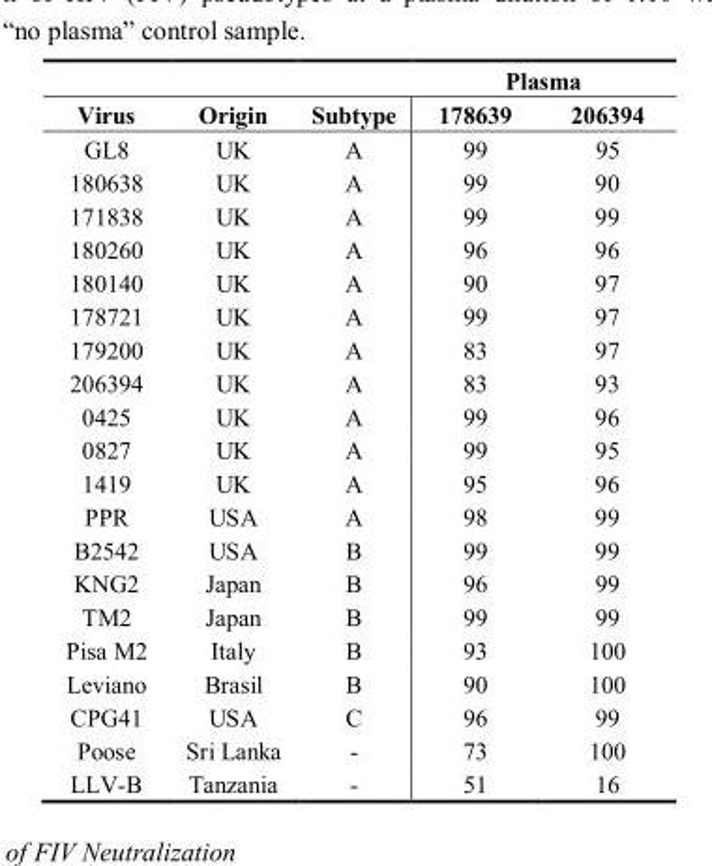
<table><thead><tr><td rowspan="2">Virus</td><td rowspan="2">Origin</td><td rowspan="2">Subtype</td><td colspan="2">Plasma</td></tr><tr><td>178639</td><td>206394</td></tr></thead><tbody><tr><td>GL8</td><td>UK</td><td>A</td><td>99</td><td>95</td></tr><tr><td>180638</td><td>UK</td><td>A</td><td>99</td><td>90</td></tr><tr><td>171838</td><td>UK</td><td>A</td><td>99</td><td>99</td></tr><tr><td>180260</td><td>UK</td><td>A</td><td>96</td><td>96</td></tr><tr><td>180140</td><td>UK</td><td>A</td><td>90</td><td>97</td></tr><tr><td>178721</td><td>UK</td><td>A</td><td>99</td><td>97</td></tr><tr><td>179200</td><td>UK</td><td>A</td><td>83</td><td>97</td></tr><tr><td>206394</td><td>UK</td><td>A</td><td>83</td><td>93</td></tr><tr><td>0425</td><td>UK</td><td>A</td><td>99</td><td>96</td></tr><tr><td>0827</td><td>UK</td><td>A</td><td>99</td><td>95</td></tr><tr><td>1419</td><td>UK</td><td>A</td><td>95</td><td>96</td></tr><tr><td>PPR</td><td>USA</td><td>A</td><td>98</td><td>99</td></tr><tr><td>B2542</td><td>USA</td><td>B</td><td>99</td><td>99</td></tr><tr><td>KNG2</td><td>Japan</td><td>B</td><td>96</td><td>99</td></tr><tr><td>TM2</td><td>Japan</td><td>B</td><td>99</td><td>99</td></tr><tr><td>Pisa M2</td><td>Italy</td><td>B</td><td>93</td><td>100</td></tr><tr><td>Leviano</td><td>Brasil</td><td>B</td><td>90</td><td>100</td></tr><tr><td>CPG41</td><td>USA</td><td>C</td><td>96</td><td>99</td></tr><tr><td>Poose</td><td>Sri Lanka</td><td>-</td><td>73</td><td>100</td></tr><tr><td>LLV-B</td><td>Tanzania</td><td>-</td><td>51</td><td>16</td></tr></tbody></table>